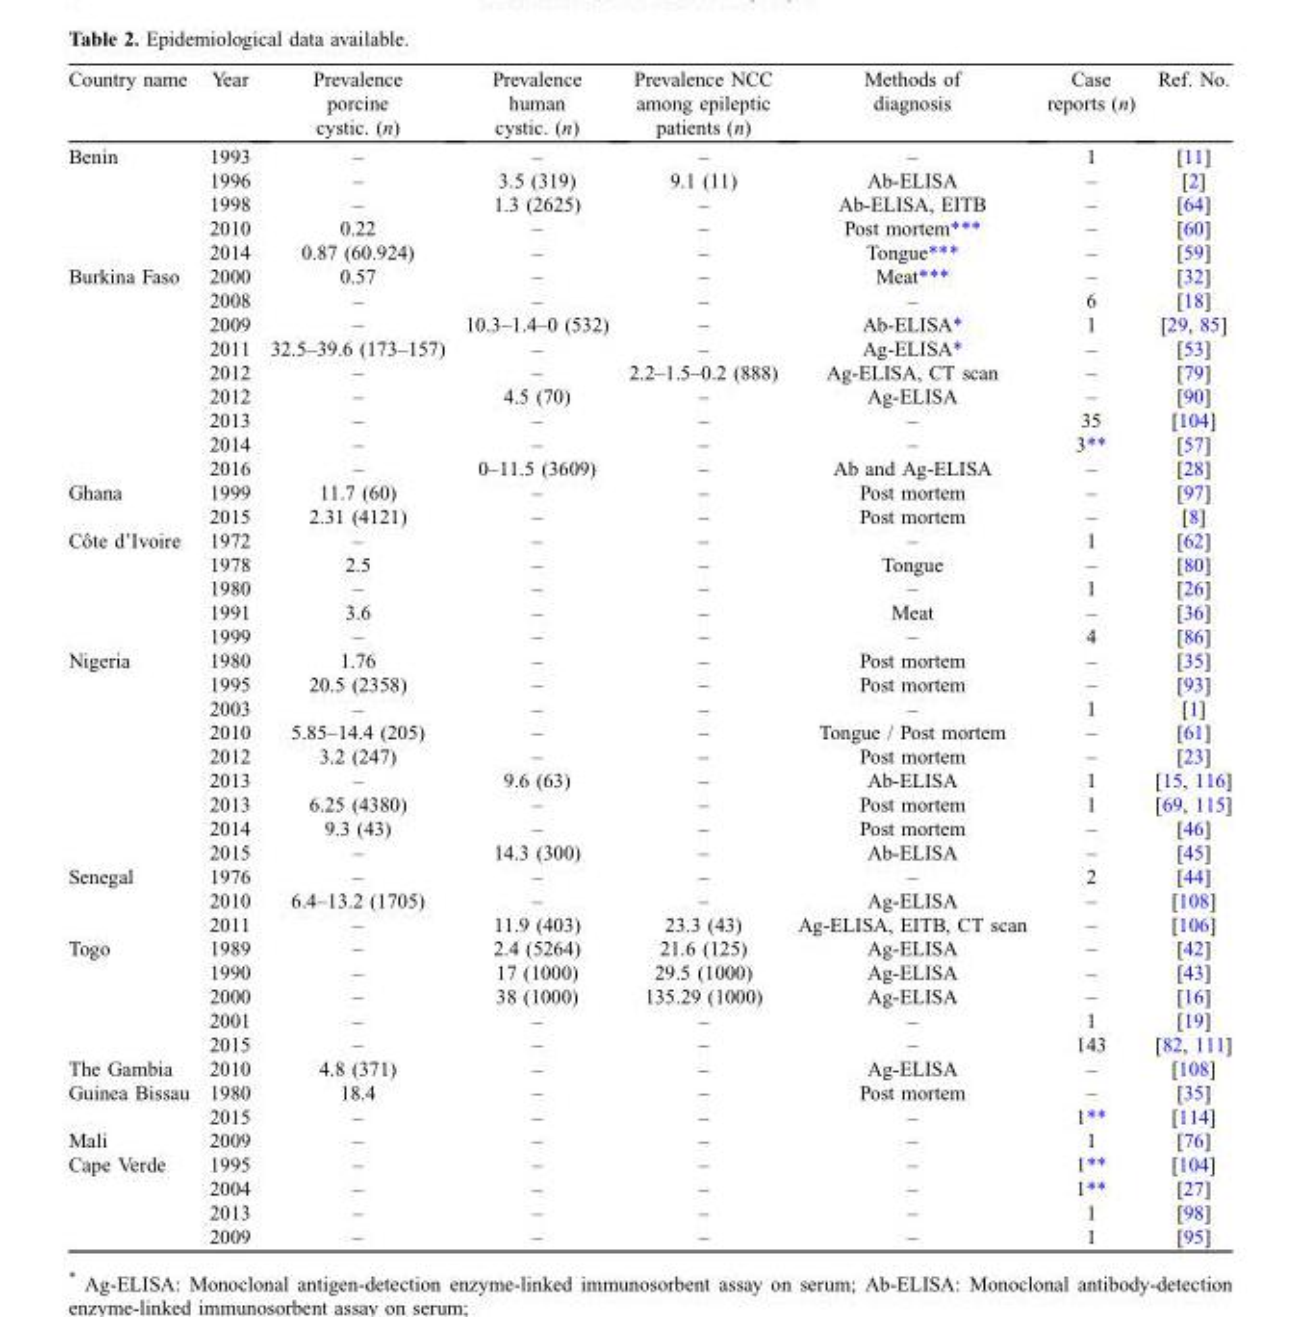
<table><thead><tr><td>Country name</td><td>Year</td><td>Prevalence porcine cystic. (n)</td><td>Prevalence human cystic. (n)</td><td>Prevalence NCC among epileptic patients (n)</td><td>Methods of diagnosis</td><td>Case reports (n)</td><td>Ref. No.</td></tr></thead><tbody><tr><td rowspan="5">Benin</td><td>1993</td><td>–</td><td>–</td><td>–</td><td>–</td><td>1</td><td>[11]</td></tr><tr><td>1996</td><td>–</td><td>3.5 (319)</td><td>9.1 (11)</td><td>Ab-ELISA</td><td>–</td><td>[2]</td></tr><tr><td>1998</td><td>–</td><td>1.3 (2625)</td><td>–</td><td>Ab-ELISA, EITB</td><td>–</td><td>[64]</td></tr><tr><td>2010</td><td>0.22</td><td>–</td><td>–</td><td>Post mortem***</td><td>–</td><td>[60]</td></tr><tr><td>2014</td><td>0.87 (60.924)</td><td>–</td><td>–</td><td>Tongue***</td><td>–</td><td>[59]</td></tr><tr><td rowspan="9">Burkina Faso</td><td>2000</td><td>0.57</td><td>–</td><td>–</td><td>Meat***</td><td>–</td><td>[32]</td></tr><tr><td>2008</td><td>–</td><td>–</td><td>–</td><td>–</td><td>6</td><td>[18]</td></tr><tr><td>2009</td><td>–</td><td>10.3–1.4–0 (532)</td><td>–</td><td>Ab-ELISA*</td><td>1</td><td>[29, 85]</td></tr><tr><td>2011</td><td>32.5–39.6 (173–157)</td><td>–</td><td>–</td><td>Ag-ELISA*</td><td>–</td><td>[53]</td></tr><tr><td>2012</td><td>–</td><td>–</td><td>2.2–1.5–0.2 (888)</td><td>Ag-ELISA, CT scan</td><td>–</td><td>[79]</td></tr><tr><td>2012</td><td>–</td><td>4.5 (70)</td><td>–</td><td>Ag-ELISA</td><td>–</td><td>[90]</td></tr><tr><td>2013</td><td>–</td><td>–</td><td>–</td><td>–</td><td>35</td><td>[104]</td></tr><tr><td>2014</td><td>–</td><td>–</td><td>–</td><td>–</td><td>3**</td><td>[57]</td></tr><tr><td>2016</td><td>–</td><td>0–11.5 (3609)</td><td>–</td><td>Ab and Ag-ELISA</td><td>–</td><td>[28]</td></tr><tr><td rowspan="2">Ghana</td><td>1999</td><td>11.7 (60)</td><td>–</td><td>–</td><td>Post mortem</td><td>–</td><td>[97]</td></tr><tr><td>2015</td><td>2.31 (4121)</td><td>–</td><td>–</td><td>Post mortem</td><td>–</td><td>[8]</td></tr><tr><td rowspan="5">Côte d’Ivoire</td><td>1972</td><td>–</td><td>–</td><td>–</td><td>–</td><td>1</td><td>[62]</td></tr><tr><td>1978</td><td>2.5</td><td>–</td><td>–</td><td>Tongue</td><td>–</td><td>[80]</td></tr><tr><td>1980</td><td>–</td><td>–</td><td>–</td><td>–</td><td>1</td><td>[26]</td></tr><tr><td>1991</td><td>3.6</td><td>–</td><td>–</td><td>Meat</td><td>–</td><td>[36]</td></tr><tr><td>1999</td><td>–</td><td>–</td><td>–</td><td>–</td><td>4</td><td>[86]</td></tr><tr><td rowspan="9">Nigeria</td><td>1980</td><td>1.76</td><td>–</td><td>–</td><td>Post mortem</td><td>–</td><td>[35]</td></tr><tr><td>1995</td><td>20.5 (2358)</td><td>–</td><td>–</td><td>Post mortem</td><td>–</td><td>[93]</td></tr><tr><td>2003</td><td>–</td><td>–</td><td>–</td><td>–</td><td>1</td><td>[1]</td></tr><tr><td>2010</td><td>5.85–14.4 (205)</td><td>–</td><td>–</td><td>Tongue / Post mortem</td><td>–</td><td>[61]</td></tr><tr><td>2012</td><td>3.2 (247)</td><td>–</td><td>–</td><td>Post mortem</td><td>–</td><td>[23]</td></tr><tr><td>2013</td><td>–</td><td>9.6 (63)</td><td>–</td><td>Ab-ELISA</td><td>1</td><td>[15, 116]</td></tr><tr><td>2013</td><td>6.25 (4380)</td><td>–</td><td>–</td><td>Post mortem</td><td>1</td><td>[69, 115]</td></tr><tr><td>2014</td><td>9.3 (43)</td><td>–</td><td>–</td><td>Post mortem</td><td>–</td><td>[46]</td></tr><tr><td>2015</td><td>–</td><td>14.3 (300)</td><td>–</td><td>Ab-ELISA</td><td>–</td><td>[45]</td></tr><tr><td rowspan="3">Senegal</td><td>1976</td><td>–</td><td>–</td><td>–</td><td>–</td><td>2</td><td>[44]</td></tr><tr><td>2010</td><td>6.4–13.2 (1705)</td><td>–</td><td>–</td><td>Ag-ELISA</td><td>–</td><td>[108]</td></tr><tr><td>2011</td><td>–</td><td>11.9 (403)</td><td>23.3 (43)</td><td>Ag-ELISA, EITB, CT scan</td><td>–</td><td>[106]</td></tr><tr><td rowspan="5">Togo</td><td>1989</td><td>–</td><td>2.4 (5264)</td><td>21.6 (125)</td><td>Ag-ELISA</td><td>–</td><td>[42]</td></tr><tr><td>1990</td><td>–</td><td>17 (1000)</td><td>29.5 (1000)</td><td>Ag-ELISA</td><td>–</td><td>[43]</td></tr><tr><td>2000</td><td>–</td><td>38 (1000)</td><td>135.29 (1000)</td><td>Ag-ELISA</td><td>–</td><td>[16]</td></tr><tr><td>2001</td><td>–</td><td>–</td><td>–</td><td>–</td><td>1</td><td>[19]</td></tr><tr><td>2015</td><td>–</td><td>–</td><td>–</td><td>–</td><td>143</td><td>[82, 111]</td></tr><tr><td>The Gambia</td><td>2010</td><td>4.8 (371)</td><td>–</td><td>–</td><td>Ag-ELISA</td><td>–</td><td>[108]</td></tr><tr><td rowspan="2">Guinea Bissau</td><td>1980</td><td>18.4</td><td>–</td><td>–</td><td>Post mortem</td><td>–</td><td>[35]</td></tr><tr><td>2015</td><td>–</td><td>–</td><td>–</td><td>–</td><td>1**</td><td>[114]</td></tr><tr><td>Mali</td><td>2009</td><td>–</td><td>–</td><td>–</td><td>–</td><td>1</td><td>[76]</td></tr><tr><td rowspan="4">Cape Verde</td><td>1995</td><td>–</td><td>–</td><td>–</td><td>–</td><td>1**</td><td>[104]</td></tr><tr><td>2004</td><td>–</td><td>–</td><td>–</td><td>–</td><td>1**</td><td>[27]</td></tr><tr><td>2013</td><td>–</td><td>–</td><td>–</td><td>–</td><td>1</td><td>[98]</td></tr><tr><td>2009</td><td>–</td><td>–</td><td>–</td><td>–</td><td>1</td><td>[95]</td></tr></tbody></table>